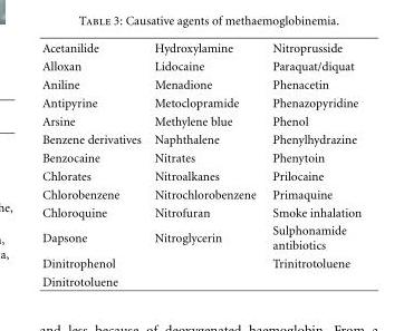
<table><tbody><tr><td>Acetanilide</td><td>Hydroxylamine</td><td>Nitroprusside</td></tr><tr><td>Alloxan</td><td>Lidocaine</td><td>Paraquat/diquat</td></tr><tr><td>Aniline</td><td>Menadione</td><td>Phenacetin</td></tr><tr><td>Antipyrine</td><td>Metoclopramide</td><td>Phenazopyridine</td></tr><tr><td>Arsine</td><td>Methylene blue</td><td>Phenol</td></tr><tr><td>Benzene derivatives</td><td>Naphthalene</td><td>Phenylhydrazine</td></tr><tr><td>Benzocaine</td><td>Nitrates</td><td>Phenytoin</td></tr><tr><td>Chlorates</td><td>Nitroalkanes</td><td>Prilocaine</td></tr><tr><td>Chlorobenzene</td><td>Nitrochlorobenzene</td><td>Primaquine</td></tr><tr><td>Chloroquine</td><td>Nitrofuran</td><td>Smoke inhalation</td></tr><tr><td>Dapsone</td><td>Nitroglycerin</td><td>Sulphonamide antibiotics</td></tr><tr><td>Dinitrophenol</td><td></td><td>Trinitrotoluene</td></tr><tr><td>Dinitrotoluene</td><td></td><td></td></tr></tbody></table>